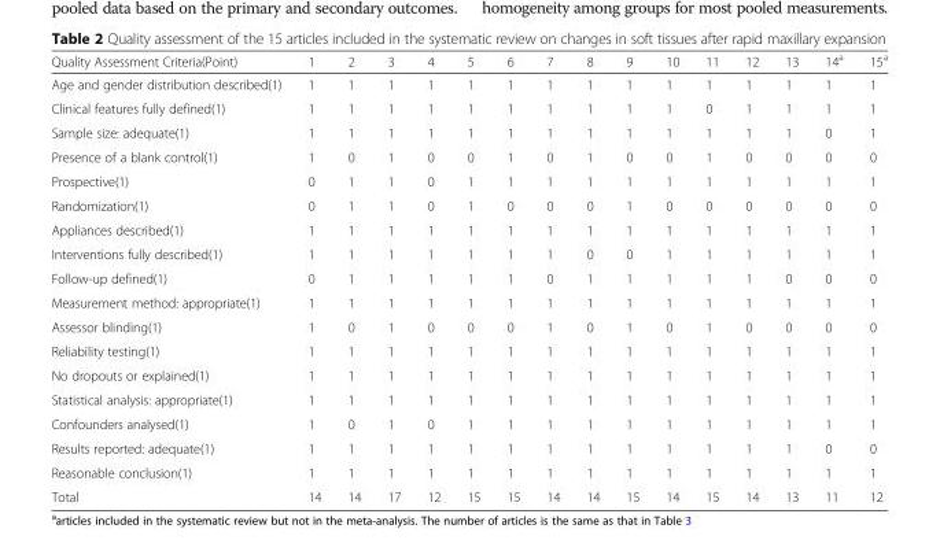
<table><thead><tr><td>Quality Assessment Criteria(Point)</td><td>1</td><td>2</td><td>3</td><td>4</td><td>5</td><td>6</td><td>7</td><td>8</td><td>9</td><td>10</td><td>11</td><td>12</td><td>13</td><td>14<sup>a</sup></td><td>15<sup>a</sup></td></tr></thead><tbody><tr><td>Age and gender distribution described(1)</td><td>1</td><td>1</td><td>1</td><td>1</td><td>1</td><td>1</td><td>1</td><td>1</td><td>1</td><td>1</td><td>1</td><td>1</td><td>1</td><td>1</td><td>1</td></tr><tr><td>Clinical features fully defined(1)</td><td>1</td><td>1</td><td>1</td><td>1</td><td>1</td><td>1</td><td>1</td><td>1</td><td>1</td><td>1</td><td>0</td><td>1</td><td>1</td><td>1</td><td>1</td></tr><tr><td>Sample size: adequate(1)</td><td>1</td><td>1</td><td>1</td><td>1</td><td>1</td><td>1</td><td>1</td><td>1</td><td>1</td><td>1</td><td>1</td><td>1</td><td>1</td><td>0</td><td>1</td></tr><tr><td>Presence of a blank control(1)</td><td>1</td><td>0</td><td>1</td><td>0</td><td>0</td><td>1</td><td>0</td><td>1</td><td>0</td><td>0</td><td>1</td><td>0</td><td>0</td><td>0</td><td>0</td></tr><tr><td>Prospective(1)</td><td>0</td><td>1</td><td>1</td><td>0</td><td>1</td><td>1</td><td>1</td><td>1</td><td>1</td><td>1</td><td>1</td><td>1</td><td>1</td><td>1</td><td>1</td></tr><tr><td>Randomization(1)</td><td>0</td><td>1</td><td>1</td><td>0</td><td>1</td><td>0</td><td>0</td><td>0</td><td>1</td><td>0</td><td>0</td><td>0</td><td>0</td><td>0</td><td>0</td></tr><tr><td>Appliances described(1)</td><td>1</td><td>1</td><td>1</td><td>1</td><td>1</td><td>1</td><td>1</td><td>1</td><td>1</td><td>1</td><td>1</td><td>1</td><td>1</td><td>1</td><td>1</td></tr><tr><td>Interventions fully described(1)</td><td>1</td><td>1</td><td>1</td><td>1</td><td>1</td><td>1</td><td>1</td><td>0</td><td>0</td><td>1</td><td>1</td><td>1</td><td>1</td><td>1</td><td>1</td></tr><tr><td>Follow-up defined(1)</td><td>0</td><td>1</td><td>1</td><td>1</td><td>1</td><td>1</td><td>0</td><td>1</td><td>1</td><td>1</td><td>1</td><td>1</td><td>0</td><td>0</td><td>0</td></tr><tr><td>Measurement method: appropriate(1)</td><td>1</td><td>1</td><td>1</td><td>1</td><td>1</td><td>1</td><td>1</td><td>1</td><td>1</td><td>1</td><td>1</td><td>1</td><td>1</td><td>1</td><td>1</td></tr><tr><td>Assessor blinding(1)</td><td>1</td><td>0</td><td>1</td><td>0</td><td>0</td><td>0</td><td>1</td><td>0</td><td>1</td><td>0</td><td>1</td><td>0</td><td>0</td><td>0</td><td>0</td></tr><tr><td>Reliability testing(1)</td><td>1</td><td>1</td><td>1</td><td>1</td><td>1</td><td>1</td><td>1</td><td>1</td><td>1</td><td>1</td><td>1</td><td>1</td><td>1</td><td>1</td><td>1</td></tr><tr><td>No dropouts or explained(1)</td><td>1</td><td>1</td><td>1</td><td>1</td><td>1</td><td>1</td><td>1</td><td>1</td><td>1</td><td>1</td><td>1</td><td>1</td><td>1</td><td>1</td><td>1</td></tr><tr><td>Statistical analysis: appropriate(1)</td><td>1</td><td>1</td><td>1</td><td>1</td><td>1</td><td>1</td><td>1</td><td>1</td><td>1</td><td>1</td><td>1</td><td>1</td><td>1</td><td>1</td><td>1</td></tr><tr><td>Confounders analysed(1)</td><td>1</td><td>0</td><td>1</td><td>0</td><td>1</td><td>1</td><td>1</td><td>1</td><td>1</td><td>1</td><td>1</td><td>1</td><td>1</td><td>1</td><td>1</td></tr><tr><td>Results reported: adequate(1)</td><td>1</td><td>1</td><td>1</td><td>1</td><td>1</td><td>1</td><td>1</td><td>1</td><td>1</td><td>1</td><td>1</td><td>1</td><td>1</td><td>0</td><td>0</td></tr><tr><td>Reasonable conclusion(1)</td><td>1</td><td>1</td><td>1</td><td>1</td><td>1</td><td>1</td><td>1</td><td>1</td><td>1</td><td>1</td><td>1</td><td>1</td><td>1</td><td>1</td><td>1</td></tr><tr><td>Total</td><td>14</td><td>14</td><td>17</td><td>12</td><td>15</td><td>15</td><td>14</td><td>14</td><td>15</td><td>14</td><td>15</td><td>14</td><td>13</td><td>11</td><td>12</td></tr></tbody></table>